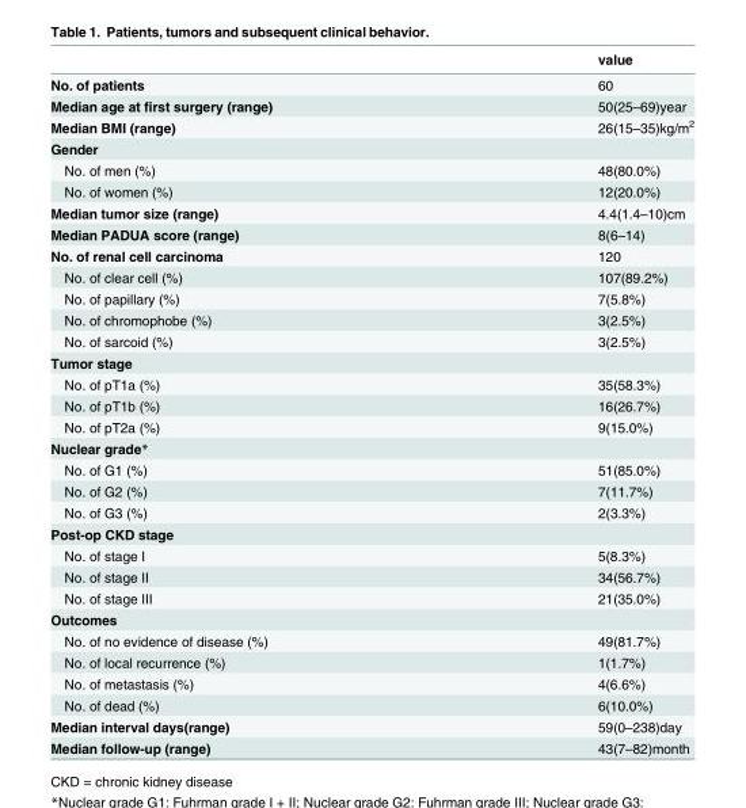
<table><thead><tr><td></td><td>value</td></tr></thead><tbody><tr><td>No. of patients</td><td>60</td></tr><tr><td>Median age at first surgery (range)</td><td>50(25–69)year</td></tr><tr><td>Median BMI (range)</td><td>26(15–35)kg/m<sup>2</sup></td></tr><tr><td colspan="2">Gender</td></tr><tr><td>No. of men (%)</td><td>48(80.0%)</td></tr><tr><td>No. of women (%)</td><td>12(20.0%)</td></tr><tr><td>Median tumor size (range)</td><td>4.4(1.4–10)cm</td></tr><tr><td>Median PADUA score (range)</td><td>8(6–14)</td></tr><tr><td>No. of renal cell carcinoma</td><td>120</td></tr><tr><td>No. of clear cell (%)</td><td>107(89.2%)</td></tr><tr><td>No. of papillary (%)</td><td>7(5.8%)</td></tr><tr><td>No. of chromophobe (%)</td><td>3(2.5%)</td></tr><tr><td>No. of sarcoid (%)</td><td>3(2.5%)</td></tr><tr><td colspan="2">Tumor stage</td></tr><tr><td>No. of pT1a (%)</td><td>35(58.3%)</td></tr><tr><td>No. of pT1b (%)</td><td>16(26.7%)</td></tr><tr><td>No. of pT2a (%)</td><td>9(15.0%)</td></tr><tr><td colspan="2">Nuclear grade*</td></tr><tr><td>No. of G1 (%)</td><td>51(85.0%)</td></tr><tr><td>No. of G2 (%)</td><td>7(11.7%)</td></tr><tr><td>No. of G3 (%)</td><td>2(3.3%)</td></tr><tr><td colspan="2">Post-op CKD stage</td></tr><tr><td>No. of stage I</td><td>5(8.3%)</td></tr><tr><td>No. of stage II</td><td>34(56.7%)</td></tr><tr><td>No. of stage III</td><td>21(35.0%)</td></tr><tr><td colspan="2">Outcomes</td></tr><tr><td>No. of no evidence of disease (%)</td><td>49(81.7%)</td></tr><tr><td>No. of local recurrence (%)</td><td>1(1.7%)</td></tr><tr><td>No. of metastasis (%)</td><td>4(6.6%)</td></tr><tr><td>No. of dead (%)</td><td>6(10.0%)</td></tr><tr><td>Median interval days(range)</td><td>59(0–238)day</td></tr><tr><td>Median follow-up (range)</td><td>43(7–82)month</td></tr></tbody></table>